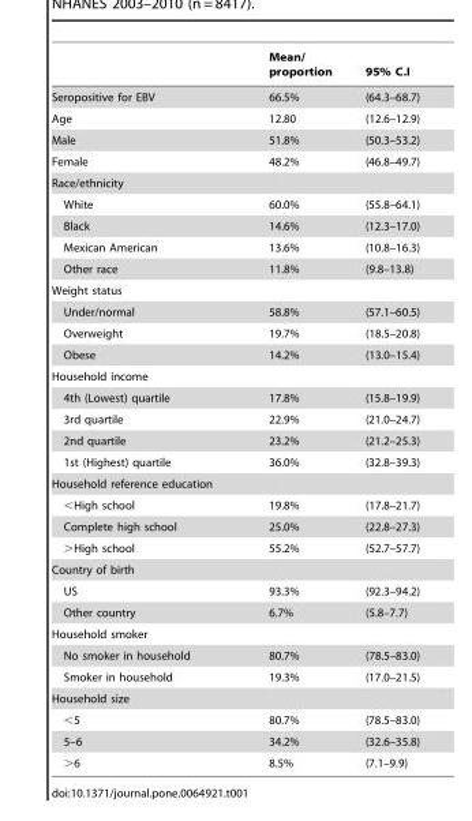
<table><thead><tr><td></td><td>Mean/ proportion</td><td>95% C.I</td></tr></thead><tbody><tr><td>Seropositive for EBV</td><td>66.5%</td><td>(64.3–68.7)</td></tr><tr><td>Age</td><td>12.80</td><td>(12.6–12.9)</td></tr><tr><td>Male</td><td>51.8%</td><td>(50.3–53.2)</td></tr><tr><td>Female</td><td>48.2%</td><td>(46.8–49.7)</td></tr><tr><td colspan="3">Race/ethnicity</td></tr><tr><td>White</td><td>60.0%</td><td>(55.8–64.1)</td></tr><tr><td>Black</td><td>14.6%</td><td>(12.3–17.0)</td></tr><tr><td>Mexican American</td><td>13.6%</td><td>(10.8–16.3)</td></tr><tr><td>Other race</td><td>11.8%</td><td>(9.8–13.8)</td></tr><tr><td colspan="3">Weight status</td></tr><tr><td>Under/normal</td><td>58.8%</td><td>(57.1–60.5)</td></tr><tr><td>Overweight</td><td>19.7%</td><td>(18.5–20.8)</td></tr><tr><td>Obese</td><td>14.2%</td><td>(13.0–15.4)</td></tr><tr><td colspan="3">Household income</td></tr><tr><td>4th (Lowest) quartile</td><td>17.8%</td><td>(15.8–19.9)</td></tr><tr><td>3rd quartile</td><td>22.9%</td><td>(21.0–24.7)</td></tr><tr><td>2nd quartile</td><td>23.2%</td><td>(21.2–25.3)</td></tr><tr><td>1st (Highest) quartile</td><td>36.0%</td><td>(32.8–39.3)</td></tr><tr><td colspan="3">Household reference education</td></tr><tr><td>&lt;High school</td><td>19.8%</td><td>(17.8–21.7)</td></tr><tr><td>Complete high school</td><td>25.0%</td><td>(22.8–27.3)</td></tr><tr><td>&gt;High school</td><td>55.2%</td><td>(52.7–57.7)</td></tr><tr><td colspan="3">Country of birth</td></tr><tr><td>US</td><td>93.3%</td><td>(92.3–94.2)</td></tr><tr><td>Other country</td><td>6.7%</td><td>(5.8–7.7)</td></tr><tr><td colspan="3">Household smoker</td></tr><tr><td>No smoker in household</td><td>80.7%</td><td>(78.5–83.0)</td></tr><tr><td>Smoker in household</td><td>19.3%</td><td>(17.0–21.5)</td></tr><tr><td colspan="3">Household size</td></tr><tr><td>&lt;5</td><td>80.7%</td><td>(78.5–83.0)</td></tr><tr><td>5–6</td><td>34.2%</td><td>(32.6–35.8)</td></tr><tr><td>&gt;6</td><td>8.5%</td><td>(7.1–9.9)</td></tr></tbody></table>